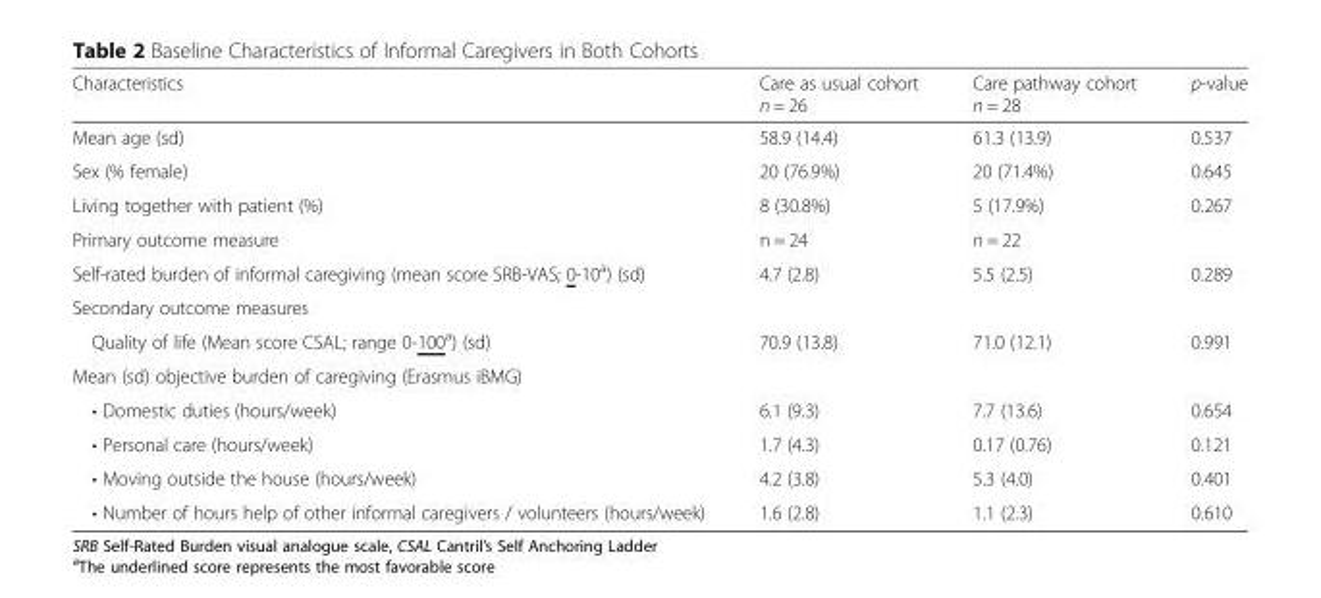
<table><thead><tr><td>Characteristics</td><td>Care as usual cohort n = 26</td><td>Care pathway cohort n = 28</td><td>p-value</td></tr></thead><tbody><tr><td>Mean age (sd)</td><td>58.9 (14.4)</td><td>61.3 (13.9)</td><td>0.537</td></tr><tr><td>Sex (% female)</td><td>20 (76.9%)</td><td>20 (71.4%)</td><td>0.645</td></tr><tr><td>Living together with patient (%)</td><td>8 (30.8%)</td><td>5 (17.9%)</td><td>0.267</td></tr><tr><td>Primary outcome measure</td><td>n = 24</td><td>n = 22</td><td></td></tr><tr><td>Self-rated burden of informal caregiving (mean score SRB-VAS; 0-10<sup>a</sup>) (sd)</td><td>4.7 (2.8)</td><td>5.5 (2.5)</td><td>0.289</td></tr><tr><td colspan="4">Secondary outcome measures</td></tr><tr><td>Quality of life (Mean score CSAL; range 0-100<sup>a</sup>) (sd)</td><td>70.9 (13.8)</td><td>71.0 (12.1)</td><td>0.991</td></tr><tr><td colspan="4">Mean (sd) objective burden of caregiving (Erasmus iBMG)</td></tr><tr><td>• Domestic duties (hours/week)</td><td>6.1 (9.3)</td><td>7.7 (13.6)</td><td>0.654</td></tr><tr><td>• Personal care (hours/week)</td><td>1.7 (4.3)</td><td>0.17 (0.76)</td><td>0.121</td></tr><tr><td>• Moving outside the house (hours/week)</td><td>4.2 (3.8)</td><td>5.3 (4.0)</td><td>0.401</td></tr><tr><td>• Number of hours help of other informal caregivers / volunteers (hours/week)</td><td>1.6 (2.8)</td><td>1.1 (2.3)</td><td>0.610</td></tr></tbody></table>